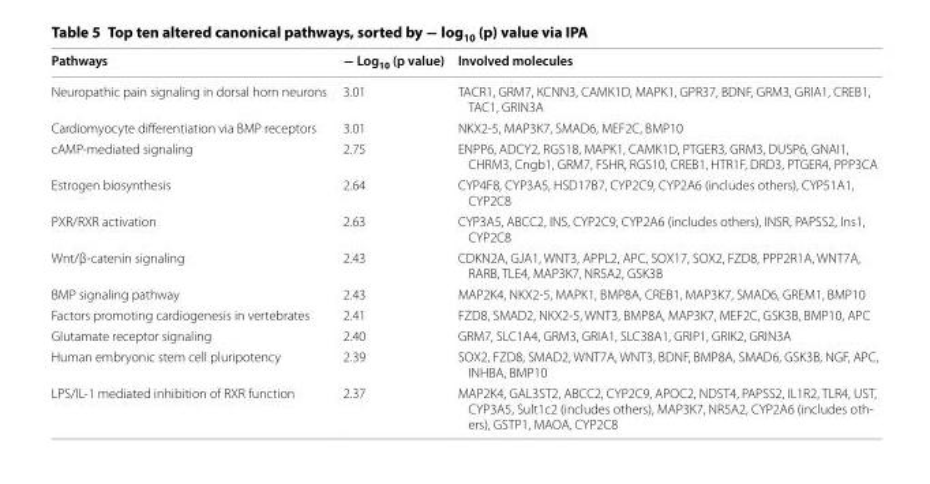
<table><thead><tr><td>Pathways</td><td>− Log<sub>10</sub> (p value)</td><td>Involved molecules</td></tr></thead><tbody><tr><td>Neuropathic pain signaling in dorsal horn neurons</td><td>3.01</td><td>TACR1, GRM7, KCNN3, CAMK1D, MAPK1, GPR37, BDNF, GRM3, GRIA1, CREB1, TAC1, GRIN3A</td></tr><tr><td>Cardiomyocyte differentiation via BMP receptors</td><td>3.01</td><td>NKX2‑5, MAP3K7, SMAD6, MEF2C, BMP10</td></tr><tr><td>cAMP‑mediated signaling</td><td>2.75</td><td>ENPP6, ADCY2, RGS18, MAPK1, CAMK1D, PTGER3, GRM3, DUSP6, GNAI1, CHRM3, Cngb1, GRM7, FSHR, RGS10, CREB1, HTR1F, DRD3, PTGER4, PPP3CA</td></tr><tr><td>Estrogen biosynthesis</td><td>2.64</td><td>CYP4F8, CYP3A5, HSD17B7, CYP2C9, CYP2A6 (includes others), CYP51A1, CYP2C8</td></tr><tr><td>PXR/RXR activation</td><td>2.63</td><td>CYP3A5, ABCC2, INS, CYP2C9, CYP2A6 (includes others), INSR, PAPSS2, Ins1, CYP2C8</td></tr><tr><td>Wnt/β‑catenin signaling</td><td>2.43</td><td>CDKN2A, GJA1, WNT3, APPL2, APC, SOX17, SOX2, FZD8, PPP2R1A, WNT7A, RARB, TLE4, MAP3K7, NR5A2, GSK3B</td></tr><tr><td>BMP signaling pathway</td><td>2.43</td><td>MAP2K4, NKX2‑5, MAPK1, BMP8A, CREB1, MAP3K7, SMAD6, GREM1, BMP10</td></tr><tr><td>Factors promoting cardiogenesis in vertebrates</td><td>2.41</td><td>FZD8, SMAD2, NKX2‑5, WNT3, BMP8A, MAP3K7, MEF2C, GSK3B, BMP10, APC</td></tr><tr><td>Glutamate receptor signaling</td><td>2.40</td><td>GRM7, SLC1A4, GRM3, GRIA1, SLC38A1, GRIP1, GRIK2, GRIN3A</td></tr><tr><td>Human embryonic stem cell pluripotency</td><td>2.39</td><td>SOX2, FZD8, SMAD2, WNT7A, WNT3, BDNF, BMP8A, SMAD6, GSK3B, NGF, APC, INHBA, BMP10</td></tr><tr><td>LPS/IL‑1 mediated inhibition of RXR function</td><td>2.37</td><td>MAP2K4, GAL3ST2, ABCC2, CYP2C9, APOC2, NDST4, PAPSS2, IL1R2, TLR4, UST, CYP3A5, Sult1c2 (includes others), MAP3K7, NR5A2, CYP2A6 (includes oth‑ ers), GSTP1, MAOA, CYP2C8</td></tr></tbody></table>